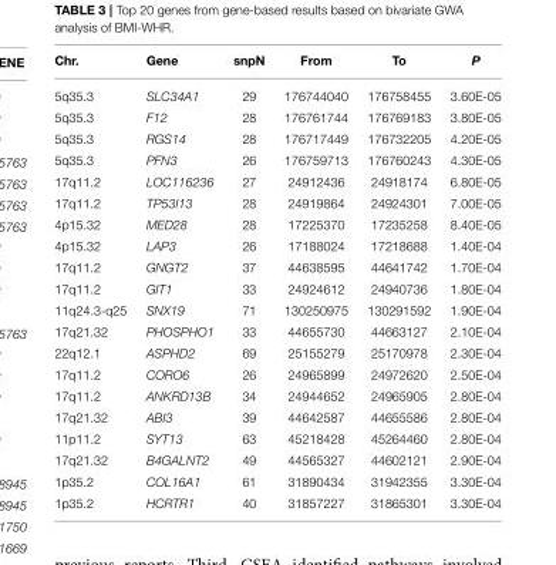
<table><thead><tr><td>Chr.</td><td>Gene</td><td>snpN</td><td>From</td><td>To</td><td>P</td></tr></thead><tbody><tr><td>5q35.3</td><td>SLC34A1</td><td>29</td><td>176744040</td><td>176758455</td><td>3.60E-05</td></tr><tr><td>5q35.3</td><td>F12</td><td>28</td><td>176761744</td><td>176769183</td><td>3.80E-05</td></tr><tr><td>5q35.3</td><td>RGS14</td><td>28</td><td>176717449</td><td>176732205</td><td>4.20E-05</td></tr><tr><td>5q35.3</td><td>PFN3</td><td>26</td><td>176759713</td><td>176760243</td><td>4.30E-05</td></tr><tr><td>17q11.2</td><td>LOC116236</td><td>27</td><td>24912436</td><td>24918174</td><td>6.80E-05</td></tr><tr><td>17q11.2</td><td>TP53I13</td><td>28</td><td>24919864</td><td>24924301</td><td>7.00E-05</td></tr><tr><td>4p15.32</td><td>MED28</td><td>28</td><td>17225370</td><td>17235258</td><td>8.40E-05</td></tr><tr><td>4p15.32</td><td>LAP3</td><td>26</td><td>17188024</td><td>17218688</td><td>1.40E-04</td></tr><tr><td>17q11.2</td><td>GNGT2</td><td>37</td><td>44638595</td><td>44641742</td><td>1.70E-04</td></tr><tr><td>17q11.2</td><td>GIT1</td><td>33</td><td>24924612</td><td>24940736</td><td>1.80E-04</td></tr><tr><td>11q24.3-q25</td><td>SNX19</td><td>71</td><td>130250975</td><td>130291592</td><td>1.90E-04</td></tr><tr><td>17q21.32</td><td>PHOSPHO1</td><td>33</td><td>44655730</td><td>44663127</td><td>2.10E-04</td></tr><tr><td>22q12.1</td><td>ASPHD2</td><td>69</td><td>25155279</td><td>25170978</td><td>2.30E-04</td></tr><tr><td>17q11.2</td><td>CORO6</td><td>26</td><td>24965899</td><td>24972620</td><td>2.50E-04</td></tr><tr><td>17q11.2</td><td>ANKRD13B</td><td>34</td><td>24944652</td><td>24965905</td><td>2.80E-04</td></tr><tr><td>17q21.32</td><td>ABI3</td><td>39</td><td>44642587</td><td>44655586</td><td>2.80E-04</td></tr><tr><td>11p11.2</td><td>SYT13</td><td>63</td><td>45218428</td><td>45264460</td><td>2.80E-04</td></tr><tr><td>17q21.32</td><td>B4GALNT2</td><td>49</td><td>44565327</td><td>44602121</td><td>2.90E-04</td></tr><tr><td>1p35.2</td><td>COL16A1</td><td>61</td><td>31890434</td><td>31942355</td><td>3.30E-04</td></tr><tr><td>1p35.2</td><td>HCRTR1</td><td>40</td><td>31857227</td><td>31865301</td><td>3.30E-04</td></tr></tbody></table>